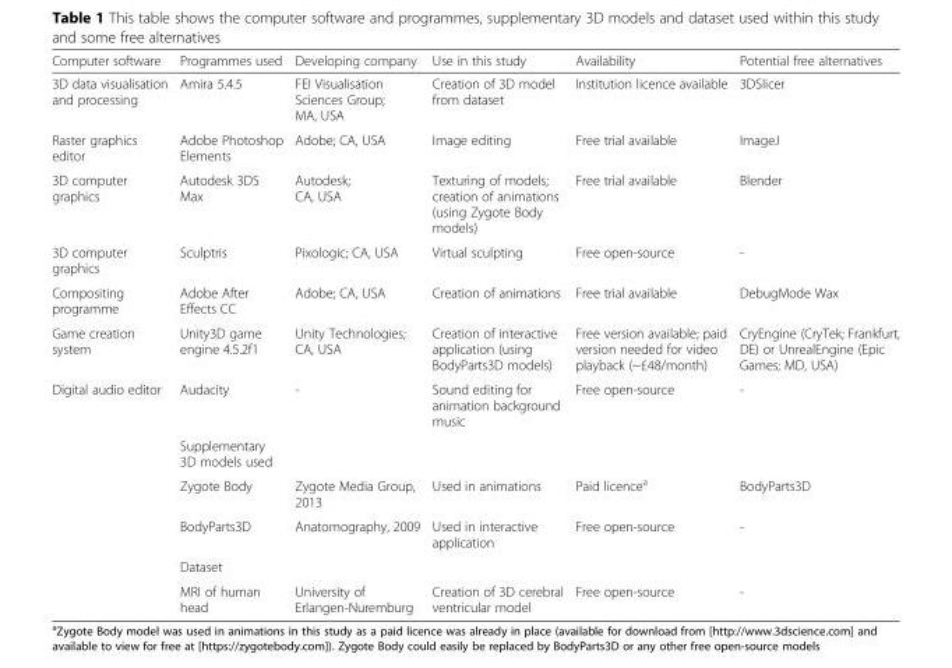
<table><thead><tr><td>Computer software</td><td>Programmes used</td><td>Developing company</td><td>Use in this study</td><td>Availability</td><td>Potential free alternatives</td></tr></thead><tbody><tr><td>3D data visualisation and processing</td><td>Amira 5.4.5</td><td>FEI Visualisation Sciences Group; MA, USA</td><td>Creation of 3D model from dataset</td><td>Institution licence available</td><td>3DSlicer</td></tr><tr><td>Raster graphics editor</td><td>Adobe Photoshop Elements</td><td>Adobe; CA, USA</td><td>Image editing</td><td>Free trial available</td><td>ImageJ</td></tr><tr><td>3D computer graphics</td><td>Autodesk 3DS Max</td><td>Autodesk; CA, USA</td><td>Texturing of models; creation of animations (using Zygote Body models)</td><td>Free trial available</td><td>Blender</td></tr><tr><td>3D computer graphics</td><td>Sculptris</td><td>Pixologic; CA, USA</td><td>Virtual sculpting</td><td>Free open-source</td><td>-</td></tr><tr><td>Compositing programme</td><td>Adobe After Effects CC</td><td>Adobe; CA, USA</td><td>Creation of animations</td><td>Free trial available</td><td>DebugMode Wax</td></tr><tr><td>Game creation system</td><td>Unity3D game engine 4.5.2f1</td><td>Unity Technologies; CA, USA</td><td>Creation of interactive application (using BodyParts3D models)</td><td>Free version available; paid version needed for video playback (~£48/month)</td><td>CryEngine (CryTek; Frankfurt, DE) or UnrealEngine (Epic Games; MD, USA)</td></tr><tr><td rowspan="6">Digital audio editor</td><td>Audacity</td><td>-</td><td>Sound editing for animation background music</td><td>Free open-source</td><td>-</td></tr><tr><td>Supplementary 3D models used</td><td></td><td></td><td></td><td></td></tr><tr><td>Zygote Body</td><td>Zygote Media Group, 2013</td><td>Used in animations</td><td>Paid licence<sup>a</sup></td><td>BodyParts3D</td></tr><tr><td>BodyParts3D</td><td>Anatomography, 2009</td><td>Used in interactive application</td><td>Free open-source</td><td>-</td></tr><tr><td>Dataset</td><td></td><td></td><td></td><td></td></tr><tr><td>MRI of human head</td><td>University of Erlangen-Nuremburg</td><td>Creation of 3D cerebral ventricular model</td><td>Free open-source</td><td>-</td></tr></tbody></table>